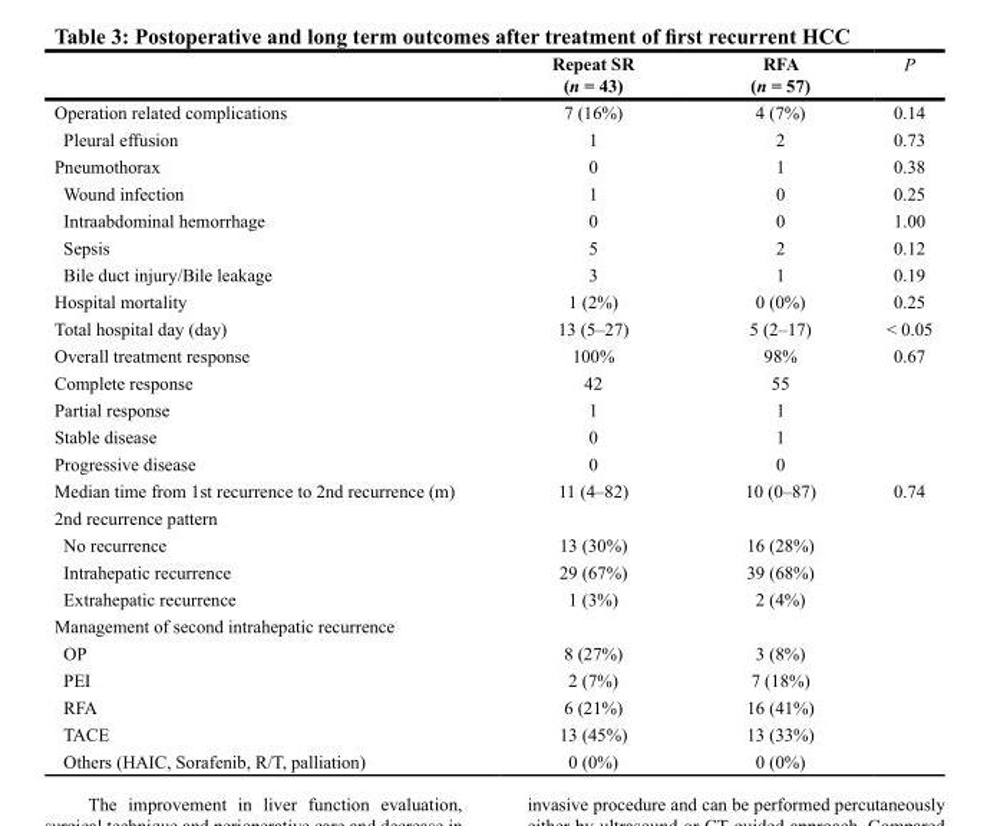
<table><thead><tr><td></td><td>Repeat SR (n = 43)</td><td>RFA (n = 57)</td><td>P</td></tr></thead><tbody><tr><td>Operation related complications</td><td>7 (16%)</td><td>4 (7%)</td><td>0.14</td></tr><tr><td>Pleural effusion</td><td>1</td><td>2</td><td>0.73</td></tr><tr><td>Pneumothorax</td><td>0</td><td>1</td><td>0.38</td></tr><tr><td>Wound infection</td><td>1</td><td>0</td><td>0.25</td></tr><tr><td>Intraabdominal hemorrhage</td><td>0</td><td>0</td><td>1.00</td></tr><tr><td>Sepsis</td><td>5</td><td>2</td><td>0.12</td></tr><tr><td>Bile duct injury/Bile leakage</td><td>3</td><td>1</td><td>0.19</td></tr><tr><td>Hospital mortality</td><td>1 (2%)</td><td>0 (0%)</td><td>0.25</td></tr><tr><td>Total hospital day (day)</td><td>13 (5–27)</td><td>5 (2–17)</td><td>&lt; 0.05</td></tr><tr><td>Overall treatment response</td><td>100%</td><td>98%</td><td>0.67</td></tr><tr><td>Complete response</td><td>42</td><td>55</td><td></td></tr><tr><td>Partial response</td><td>1</td><td>1</td><td></td></tr><tr><td>Stable disease</td><td>0</td><td>1</td><td></td></tr><tr><td>Progressive disease</td><td>0</td><td>0</td><td></td></tr><tr><td>Median time from 1st recurrence to 2nd recurrence (m)</td><td>11 (4–82)</td><td>10 (0–87)</td><td>0.74</td></tr><tr><td colspan="4">2nd recurrence pattern</td></tr><tr><td>No recurrence</td><td>13 (30%)</td><td>16 (28%)</td><td></td></tr><tr><td>Intrahepatic recurrence</td><td>29 (67%)</td><td>39 (68%)</td><td></td></tr><tr><td>Extrahepatic recurrence</td><td>1 (3%)</td><td>2 (4%)</td><td></td></tr><tr><td colspan="4">Management of second intrahepatic recurrence</td></tr><tr><td>OP</td><td>8 (27%)</td><td>3 (8%)</td><td></td></tr><tr><td>PEI</td><td>2 (7%)</td><td>7 (18%)</td><td></td></tr><tr><td>RFA</td><td>6 (21%)</td><td>16 (41%)</td><td></td></tr><tr><td>TACE</td><td>13 (45%)</td><td>13 (33%)</td><td></td></tr><tr><td>Others (HAIC, Sorafenib, R/T, palliation)</td><td>0 (0%)</td><td>0 (0%)</td><td></td></tr></tbody></table>